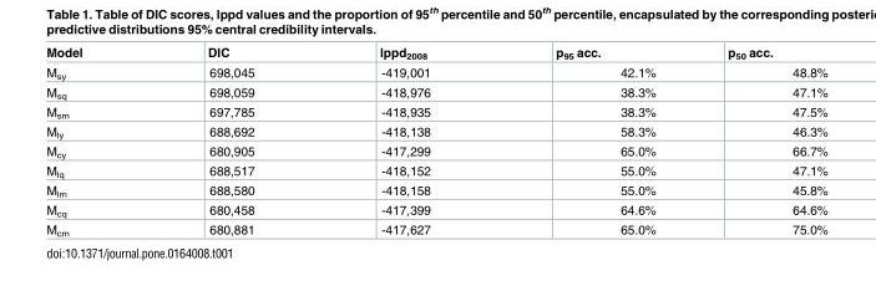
<table><thead><tr><td>Model</td><td>DIC</td><td>lppd<sub>2008</sub></td><td>p<sub>95</sub> acc.</td><td>p<sub>50</sub> acc.</td></tr></thead><tbody><tr><td>M<sub>sy</sub></td><td>698,045</td><td>-419,001</td><td>42.1%</td><td>48.8%</td></tr><tr><td>M<sub>sq</sub></td><td>698,059</td><td>-418,976</td><td>38.3%</td><td>47.1%</td></tr><tr><td>M<sub>sm</sub></td><td>697,785</td><td>-418,935</td><td>38.3%</td><td>47.5%</td></tr><tr><td>M<sub>ly</sub></td><td>688,692</td><td>-418,138</td><td>58.3%</td><td>46.3%</td></tr><tr><td>M<sub>cy</sub></td><td>680,905</td><td>-417,299</td><td>65.0%</td><td>66.7%</td></tr><tr><td>M<sub>lq</sub></td><td>688,517</td><td>-418,152</td><td>55.0%</td><td>47.1%</td></tr><tr><td>M<sub>lm</sub></td><td>688,580</td><td>-418,158</td><td>55.0%</td><td>45.8%</td></tr><tr><td>M<sub>cq</sub></td><td>680,458</td><td>-417,399</td><td>64.6%</td><td>64.6%</td></tr><tr><td>M<sub>cm</sub></td><td>680,881</td><td>-417,627</td><td>65.0%</td><td>75.0%</td></tr></tbody></table>